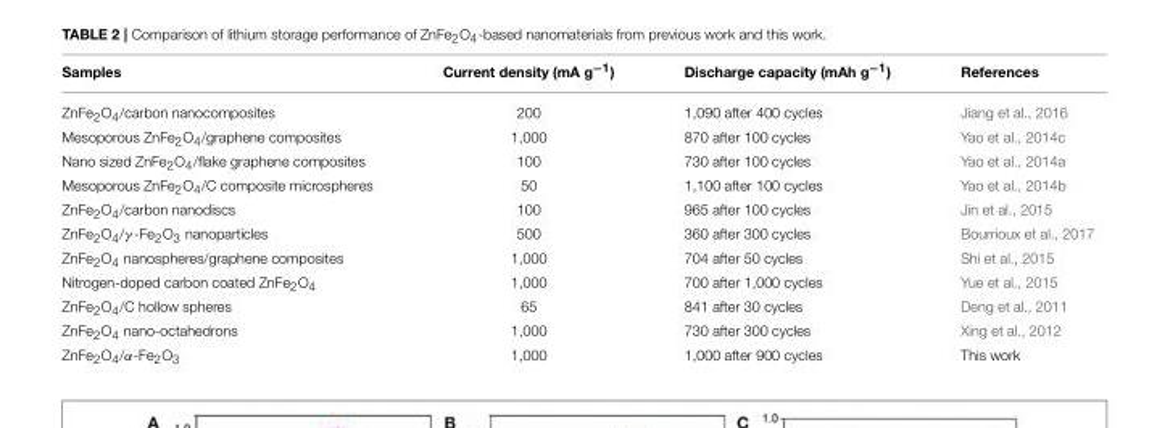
<table><thead><tr><td>Samples</td><td>Current density (mA g<sup>−1</sup>)</td><td>Discharge capacity (mAh g<sup>−1</sup>)</td><td>References</td></tr></thead><tbody><tr><td>ZnFe<sub>2</sub>O<sub>4</sub>/carbon nanocomposites</td><td>200</td><td>1,090 after 400 cycles</td><td>Jiang et al., 2016</td></tr><tr><td>Mesoporous ZnFe<sub>2</sub>O<sub>4</sub>/graphene composites</td><td>1,000</td><td>870 after 100 cycles</td><td>Yao et al., 2014c</td></tr><tr><td>Nano sized ZnFe<sub>2</sub>O<sub>4</sub>/flake graphene composites</td><td>100</td><td>730 after 100 cycles</td><td>Yao et al., 2014a</td></tr><tr><td>Mesoporous ZnFe<sub>2</sub>O<sub>4</sub>/C composite microspheres</td><td>50</td><td>1,100 after 100 cycles</td><td>Yao et al., 2014b</td></tr><tr><td>ZnFe<sub>2</sub>O<sub>4</sub>/carbon nanodiscs</td><td>100</td><td>965 after 100 cycles</td><td>Jin et al., 2015</td></tr><tr><td>ZnFe<sub>2</sub>O<sub>4</sub>/γ -Fe<sub>2</sub>O<sub>3</sub> nanoparticles</td><td>500</td><td>360 after 300 cycles</td><td>Bourrioux et al., 2017</td></tr><tr><td>ZnFe<sub>2</sub>O<sub>4</sub> nanospheres/graphene composites</td><td>1,000</td><td>704 after 50 cycles</td><td>Shi et al., 2015</td></tr><tr><td>Nitrogen-doped carbon coated ZnFe<sub>2</sub>O<sub>4</sub></td><td>1,000</td><td>700 after 1,000 cycles</td><td>Yue et al., 2015</td></tr><tr><td>ZnFe<sub>2</sub>O<sub>4</sub>/C hollow spheres</td><td>65</td><td>841 after 30 cycles</td><td>Deng et al., 2011</td></tr><tr><td>ZnFe<sub>2</sub>O<sub>4</sub> nano-octahedrons</td><td>1,000</td><td>730 after 300 cycles</td><td>Xing et al., 2012</td></tr><tr><td>ZnFe<sub>2</sub>O<sub>4</sub>/α-Fe<sub>2</sub>O<sub>3</sub></td><td>1,000</td><td>1,000 after 900 cycles</td><td>This work</td></tr></tbody></table>